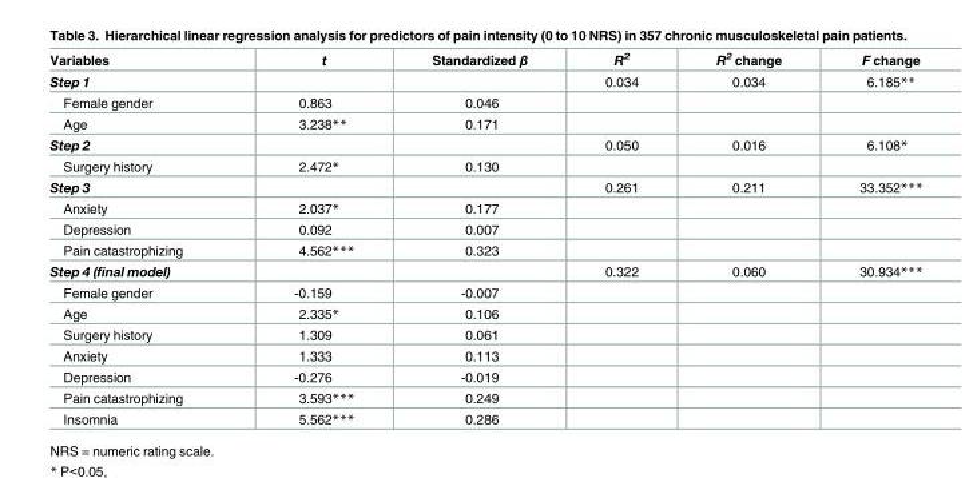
<table><thead><tr><td>Variables</td><td>t</td><td>Standardized β</td><td>R<sup>2</sup></td><td>R<sup>2</sup> change</td><td>F change</td></tr></thead><tbody><tr><td>Step 1</td><td></td><td></td><td>0.034</td><td>0.034</td><td>6.185**</td></tr><tr><td>Female gender</td><td>0.863</td><td>0.046</td><td></td><td></td><td></td></tr><tr><td>Age</td><td>3.238**</td><td>0.171</td><td></td><td></td><td></td></tr><tr><td>Step 2</td><td></td><td></td><td>0.050</td><td>0.016</td><td>6.108*</td></tr><tr><td>Surgery history</td><td>2.472*</td><td>0.130</td><td></td><td></td><td></td></tr><tr><td>Step 3</td><td></td><td></td><td>0.261</td><td>0.211</td><td>33.352***</td></tr><tr><td>Anxiety</td><td>2.037*</td><td>0.177</td><td></td><td></td><td></td></tr><tr><td>Depression</td><td>0.092</td><td>0.007</td><td></td><td></td><td></td></tr><tr><td>Pain catastrophizing</td><td>4.562***</td><td>0.323</td><td></td><td></td><td></td></tr><tr><td>Step 4 (final model)</td><td></td><td></td><td>0.322</td><td>0.060</td><td>30.934***</td></tr><tr><td>Female gender</td><td>-0.159</td><td>-0.007</td><td></td><td></td><td></td></tr><tr><td>Age</td><td>2.335*</td><td>0.106</td><td></td><td></td><td></td></tr><tr><td>Surgery history</td><td>1.309</td><td>0.061</td><td></td><td></td><td></td></tr><tr><td>Anxiety</td><td>1.333</td><td>0.113</td><td></td><td></td><td></td></tr><tr><td>Depression</td><td>-0.276</td><td>-0.019</td><td></td><td></td><td></td></tr><tr><td>Pain catastrophizing</td><td>3.593***</td><td>0.249</td><td></td><td></td><td></td></tr><tr><td>Insomnia</td><td>5.562***</td><td>0.286</td><td></td><td></td><td></td></tr></tbody></table>